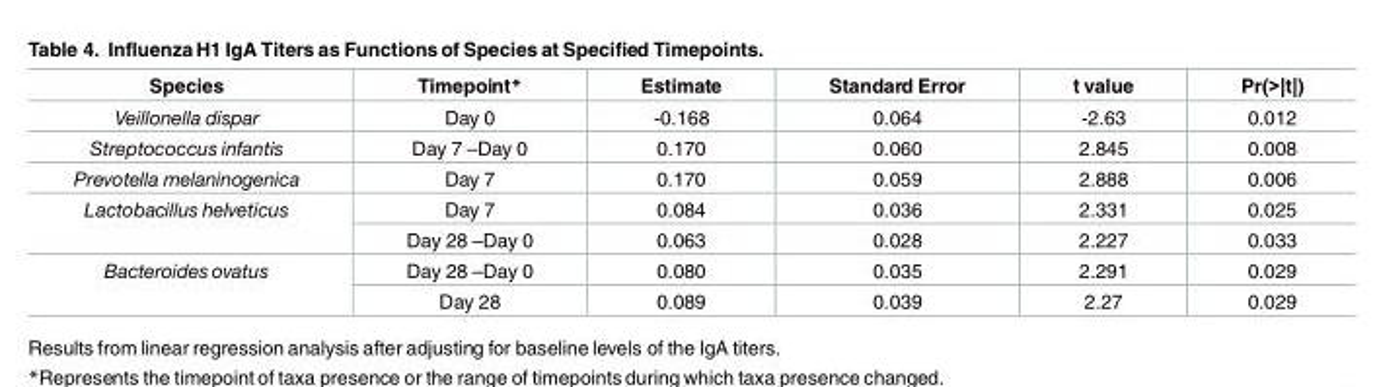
<table><thead><tr><td>Species</td><td>Timepoint*</td><td>Estimate</td><td>Standard Error</td><td>t value</td><td>Pr(&gt;|t|)</td></tr></thead><tbody><tr><td>Veillonella dispar</td><td>Day 0</td><td>-0.168</td><td>0.064</td><td>-2.63</td><td>0.012</td></tr><tr><td>Streptococcus infantis</td><td>Day 7 –Day 0</td><td>0.170</td><td>0.060</td><td>2.845</td><td>0.008</td></tr><tr><td>Prevotella melaninogenica</td><td>Day 7</td><td>0.170</td><td>0.059</td><td>2.888</td><td>0.006</td></tr><tr><td rowspan="2">Lactobacillus helveticus</td><td>Day 7</td><td>0.084</td><td>0.036</td><td>2.331</td><td>0.025</td></tr><tr><td>Day 28 –Day 0</td><td>0.063</td><td>0.028</td><td>2.227</td><td>0.033</td></tr><tr><td rowspan="2">Bacteroides ovatus</td><td>Day 28 –Day 0</td><td>0.080</td><td>0.035</td><td>2.291</td><td>0.029</td></tr><tr><td>Day 28</td><td>0.089</td><td>0.039</td><td>2.27</td><td>0.029</td></tr></tbody></table>